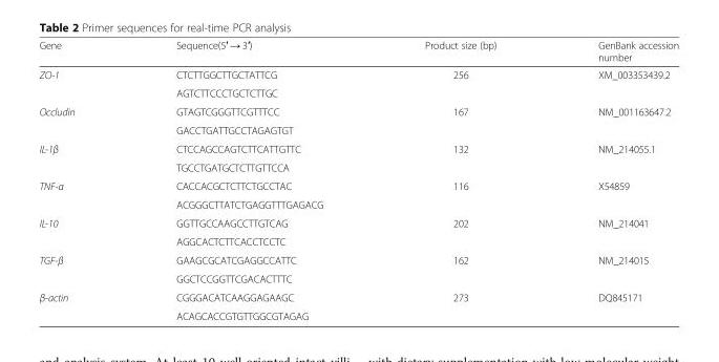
<table><thead><tr><td>Gene</td><td>Sequence(5′ → 3′)</td><td>Product size (bp)</td><td>GenBank accession number</td></tr></thead><tbody><tr><td rowspan="2">ZO-1</td><td>CTCTTGGCTTGCTATTCG</td><td rowspan="2">256</td><td rowspan="2">XM_003353439.2</td></tr><tr><td>AGTCTTCCCTGCTCTTGC</td></tr><tr><td rowspan="2">Occludin</td><td>GTAGTCGGGTTCGTTTCC</td><td rowspan="2">167</td><td rowspan="2">NM_001163647.2</td></tr><tr><td>GACCTGATTGCCTAGAGTGT</td></tr><tr><td rowspan="2">IL-1β</td><td>CTCCAGCCAGTCTTCATTGTTC</td><td rowspan="2">132</td><td rowspan="2">NM_214055.1</td></tr><tr><td>TGCCTGATGCTCTTGTTCCA</td></tr><tr><td rowspan="2">TNF-α</td><td>CACCACGCTCTTCTGCCTAC</td><td rowspan="2">116</td><td rowspan="2">X54859</td></tr><tr><td>ACGGGCTTATCTGAGGTTTGAGACG</td></tr><tr><td rowspan="2">IL-10</td><td>GGTTGCCAAGCCTTGTCAG</td><td rowspan="2">202</td><td rowspan="2">NM_214041</td></tr><tr><td>AGGCACTCTTCACCTCCTC</td></tr><tr><td rowspan="2">TGF-β</td><td>GAAGCGCATCGAGGCCATTC</td><td rowspan="2">162</td><td rowspan="2">NM_214015</td></tr><tr><td>GGCTCCGGTTCGACACTTTC</td></tr><tr><td rowspan="2">β-actin</td><td>CGGGACATCAAGGAGAAGC</td><td rowspan="2">273</td><td rowspan="2">DQ845171</td></tr><tr><td>ACAGCACCGTGTTGGCGTAGAG</td></tr></tbody></table>